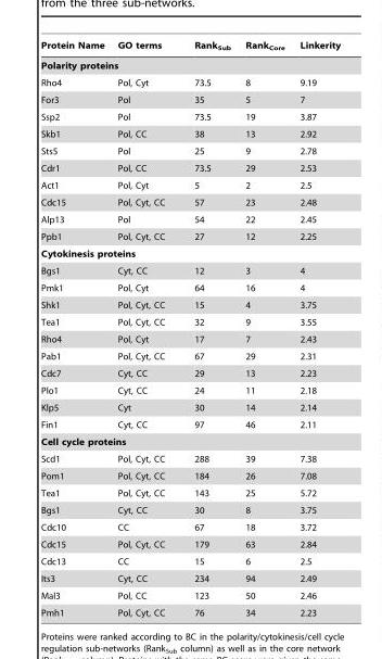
<table><thead><tr><td>Protein Name</td><td>GO terms</td><td>Rank<sub>Sub</sub></td><td>Rank<sub>Core</sub></td><td>Linkerity</td></tr></thead><tbody><tr><td colspan="5">Polarity proteins</td></tr><tr><td>Rho4</td><td>Pol, Cyt</td><td>73.5</td><td>8</td><td>9.19</td></tr><tr><td>For3</td><td>Pol</td><td>35</td><td>5</td><td>7</td></tr><tr><td>Ssp2</td><td>Pol</td><td>73.5</td><td>19</td><td>3.87</td></tr><tr><td>Skb1</td><td>Pol, CC</td><td>38</td><td>13</td><td>2.92</td></tr><tr><td>Sts5</td><td>Pol</td><td>25</td><td>9</td><td>2.78</td></tr><tr><td>Cdr1</td><td>Pol, CC</td><td>73.5</td><td>29</td><td>2.53</td></tr><tr><td>Act1</td><td>Pol, Cyt</td><td>5</td><td>2</td><td>2.5</td></tr><tr><td>Cdc15</td><td>Pol, Cyt, CC</td><td>57</td><td>23</td><td>2.48</td></tr><tr><td>Alp13</td><td>Pol</td><td>54</td><td>22</td><td>2.45</td></tr><tr><td>Ppb1</td><td>Pol, Cyt, CC</td><td>27</td><td>12</td><td>2.25</td></tr><tr><td colspan="5">Cytokinesis proteins</td></tr><tr><td>Bgs1</td><td>Cyt, CC</td><td>12</td><td>3</td><td>4</td></tr><tr><td>Pmk1</td><td>Pol, Cyt</td><td>64</td><td>16</td><td>4</td></tr><tr><td>Shk1</td><td>Pol, Cyt, CC</td><td>15</td><td>4</td><td>3.75</td></tr><tr><td>Tea1</td><td>Pol, Cyt, CC</td><td>32</td><td>9</td><td>3.55</td></tr><tr><td>Rho4</td><td>Pol, Cyt</td><td>17</td><td>7</td><td>2.43</td></tr><tr><td>Pab1</td><td>Pol, Cyt, CC</td><td>67</td><td>29</td><td>2.31</td></tr><tr><td>Cdc7</td><td>Cyt, CC</td><td>29</td><td>13</td><td>2.23</td></tr><tr><td>Plo1</td><td>Cyt, CC</td><td>24</td><td>11</td><td>2.18</td></tr><tr><td>Klp5</td><td>Cyt</td><td>30</td><td>14</td><td>2.14</td></tr><tr><td>Fin1</td><td>Cyt, CC</td><td>97</td><td>46</td><td>2.11</td></tr><tr><td colspan="5">Cell cycle proteins</td></tr><tr><td>Scd1</td><td>Pol, Cyt, CC</td><td>288</td><td>39</td><td>7.38</td></tr><tr><td>Pom1</td><td>Pol, Cyt, CC</td><td>184</td><td>26</td><td>7.08</td></tr><tr><td>Tea1</td><td>Pol, Cyt, CC</td><td>143</td><td>25</td><td>5.72</td></tr><tr><td>Bgs1</td><td>Cyt, CC</td><td>30</td><td>8</td><td>3.75</td></tr><tr><td>Cdc10</td><td>CC</td><td>67</td><td>18</td><td>3.72</td></tr><tr><td>Cdc15</td><td>Pol, Cyt, CC</td><td>179</td><td>63</td><td>2.84</td></tr><tr><td>Cdc13</td><td>CC</td><td>15</td><td>6</td><td>2.5</td></tr><tr><td>Its3</td><td>Cyt, CC</td><td>234</td><td>94</td><td>2.49</td></tr><tr><td>Mal3</td><td>Pol, CC</td><td>123</td><td>50</td><td>2.46</td></tr><tr><td>Pmh1</td><td>Pol, Cyt, CC</td><td>76</td><td>34</td><td>2.23</td></tr></tbody></table>